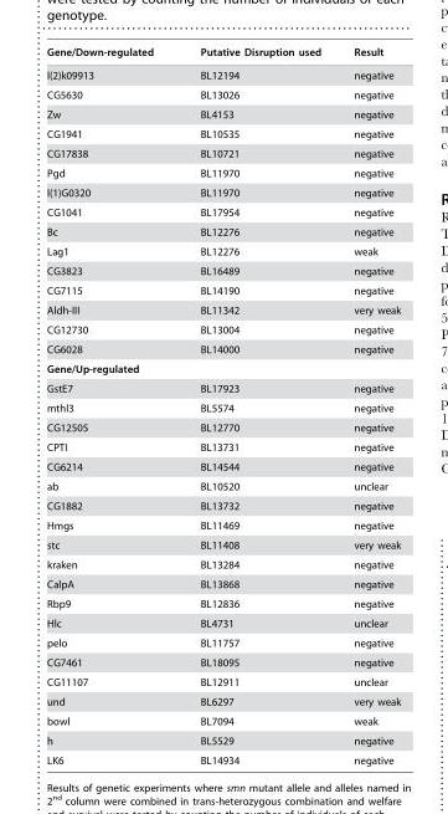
<table><thead><tr><td>Gene/Down-regulated</td><td>Putative Disruption used</td><td>Result</td></tr></thead><tbody><tr><td>l(2)k09913</td><td>BL12194</td><td>negative</td></tr><tr><td>CG5630</td><td>BL13026</td><td>negative</td></tr><tr><td>Zw</td><td>BL4153</td><td>negative</td></tr><tr><td>CG1941</td><td>BL10535</td><td>negative</td></tr><tr><td>CG17838</td><td>BL10721</td><td>negative</td></tr><tr><td>Pgd</td><td>BL11970</td><td>negative</td></tr><tr><td>l(1)G0320</td><td>BL11970</td><td>negative</td></tr><tr><td>CG1041</td><td>BL17954</td><td>negative</td></tr><tr><td>Bc</td><td>BL12276</td><td>negative</td></tr><tr><td>Lag1</td><td>BL12276</td><td>weak</td></tr><tr><td>CG3823</td><td>BL16489</td><td>negative</td></tr><tr><td>CG7115</td><td>BL14190</td><td>negative</td></tr><tr><td>Aldh-III</td><td>BL11342</td><td>very weak</td></tr><tr><td>CG12730</td><td>BL13004</td><td>negative</td></tr><tr><td>CG6028</td><td>BL14000</td><td>negative</td></tr><tr><td colspan="3">Gene/Up-regulated</td></tr><tr><td>GstE7</td><td>BL17923</td><td>negative</td></tr><tr><td>mthl3</td><td>BL5574</td><td>negative</td></tr><tr><td>CG12505</td><td>BL12770</td><td>negative</td></tr><tr><td>CPTI</td><td>BL13731</td><td>negative</td></tr><tr><td>CG6214</td><td>BL14544</td><td>negative</td></tr><tr><td>ab</td><td>BL10520</td><td>unclear</td></tr><tr><td>CG1882</td><td>BL13732</td><td>negative</td></tr><tr><td>Hmgs</td><td>BL11469</td><td>negative</td></tr><tr><td>stc</td><td>BL11408</td><td>very weak</td></tr><tr><td>kraken</td><td>BL13284</td><td>negative</td></tr><tr><td>CalpA</td><td>BL13868</td><td>negative</td></tr><tr><td>Rbp9</td><td>BL12836</td><td>negative</td></tr><tr><td>Hlc</td><td>BL4731</td><td>unclear</td></tr><tr><td>pelo</td><td>BL11757</td><td>negative</td></tr><tr><td>CG7461</td><td>BL18095</td><td>negative</td></tr><tr><td>CG11107</td><td>BL12911</td><td>unclear</td></tr><tr><td>und</td><td>BL6297</td><td>very weak</td></tr><tr><td>bowl</td><td>BL7094</td><td>weak</td></tr><tr><td>h</td><td>BL5529</td><td>negative</td></tr><tr><td>LK6</td><td>BL14934</td><td>negative</td></tr></tbody></table>